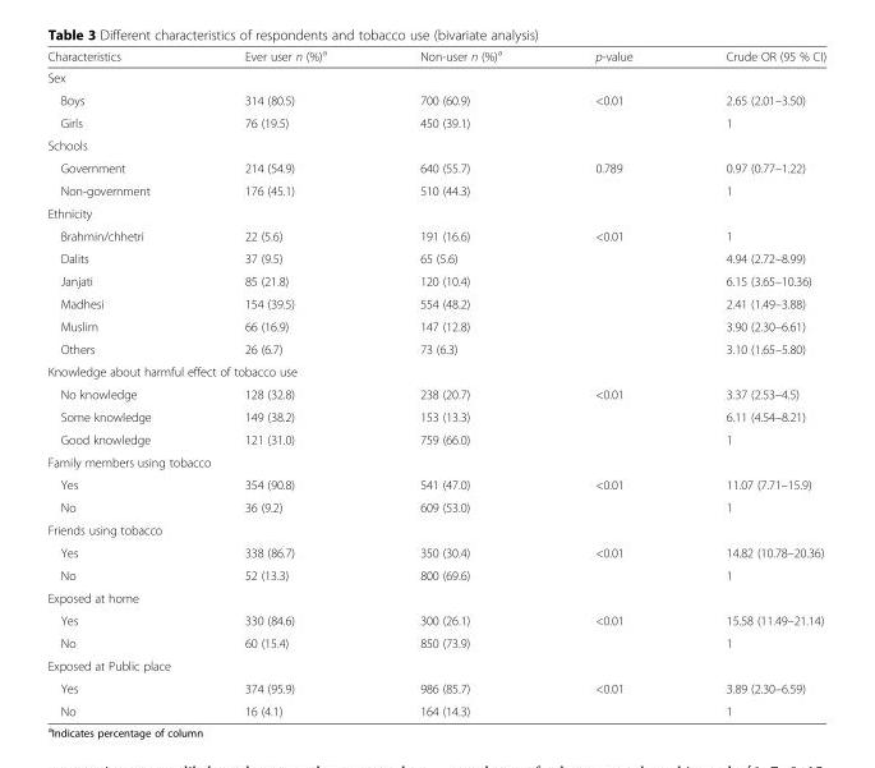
<table><thead><tr><td>Characteristics</td><td>Ever user n (%)<sup>a</sup></td><td>Non-user n (%)<sup>a</sup></td><td>p-value</td><td>Crude OR (95 % CI)</td></tr></thead><tbody><tr><td colspan="5">Sex</td></tr><tr><td>Boys</td><td>314 (80.5)</td><td>700 (60.9)</td><td rowspan="2">&lt;0.01</td><td>2.65 (2.01–3.50)</td></tr><tr><td>Girls</td><td>76 (19.5)</td><td>450 (39.1)</td><td>1</td></tr><tr><td colspan="5">Schools</td></tr><tr><td>Government</td><td>214 (54.9)</td><td>640 (55.7)</td><td rowspan="2">0.789</td><td>0.97 (0.77–1.22)</td></tr><tr><td>Non-government</td><td>176 (45.1)</td><td>510 (44.3)</td><td>1</td></tr><tr><td colspan="5">Ethnicity</td></tr><tr><td>Brahmin/chhetri</td><td>22 (5.6)</td><td>191 (16.6)</td><td rowspan="6">&lt;0.01</td><td>1</td></tr><tr><td>Dalits</td><td>37 (9.5)</td><td>65 (5.6)</td><td>4.94 (2.72–8.99)</td></tr><tr><td>Janjati</td><td>85 (21.8)</td><td>120 (10.4)</td><td>6.15 (3.65–10.36)</td></tr><tr><td>Madhesi</td><td>154 (39.5)</td><td>554 (48.2)</td><td>2.41 (1.49–3.88)</td></tr><tr><td>Muslim</td><td>66 (16.9)</td><td>147 (12.8)</td><td>3.90 (2.30–6.61)</td></tr><tr><td>Others</td><td>26 (6.7)</td><td>73 (6.3)</td><td>3.10 (1.65–5.80)</td></tr><tr><td colspan="5">Knowledge about harmful effect of tobacco use</td></tr><tr><td>No knowledge</td><td>128 (32.8)</td><td>238 (20.7)</td><td rowspan="3">&lt;0.01</td><td>3.37 (2.53–4.5)</td></tr><tr><td>Some knowledge</td><td>149 (38.2)</td><td>153 (13.3)</td><td>6.11 (4.54–8.21)</td></tr><tr><td>Good knowledge</td><td>121 (31.0)</td><td>759 (66.0)</td><td>1</td></tr><tr><td colspan="5">Family members using tobacco</td></tr><tr><td>Yes</td><td>354 (90.8)</td><td>541 (47.0)</td><td rowspan="2">&lt;0.01</td><td>11.07 (7.71–15.9)</td></tr><tr><td>No</td><td>36 (9.2)</td><td>609 (53.0)</td><td>1</td></tr><tr><td colspan="5">Friends using tobacco</td></tr><tr><td>Yes</td><td>338 (86.7)</td><td>350 (30.4)</td><td rowspan="2">&lt;0.01</td><td>14.82 (10.78–20.36)</td></tr><tr><td>No</td><td>52 (13.3)</td><td>800 (69.6)</td><td>1</td></tr><tr><td colspan="5">Exposed at home</td></tr><tr><td>Yes</td><td>330 (84.6)</td><td>300 (26.1)</td><td rowspan="2">&lt;0.01</td><td>15.58 (11.49–21.14)</td></tr><tr><td>No</td><td>60 (15.4)</td><td>850 (73.9)</td><td>1</td></tr><tr><td colspan="5">Exposed at Public place</td></tr><tr><td>Yes</td><td>374 (95.9)</td><td>986 (85.7)</td><td rowspan="2">&lt;0.01</td><td>3.89 (2.30–6.59)</td></tr><tr><td>No</td><td>16 (4.1)</td><td>164 (14.3)</td><td>1</td></tr></tbody></table>